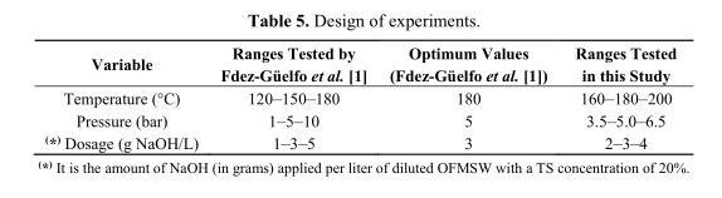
<table><thead><tr><td>Variable</td><td>Ranges Tested by Fdez-Güelfo et al. [1]</td><td>Optimum Values (Fdez-Güelfo et al. [1])</td><td>Ranges Tested in this Study</td></tr></thead><tbody><tr><td>Temperature (°C)</td><td>120–150–180</td><td>180</td><td>160–180–200</td></tr><tr><td>Pressure (bar)</td><td>1–5–10</td><td>5</td><td>3.5–5.0–6.5</td></tr><tr><td><sup>(</sup>*<sup>)</sup> Dosage (g NaOH/L)</td><td>1–3–5</td><td>3</td><td>2–3–4</td></tr></tbody></table>